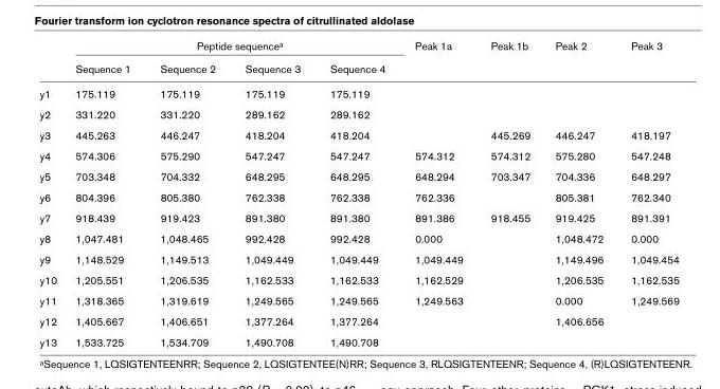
<table><thead><tr><td rowspan="2"></td><td colspan="4">Peptide sequence<sup>a</sup></td><td rowspan="2">Peak 1a</td><td rowspan="2">Peak 1b</td><td rowspan="2">Peak 2</td><td rowspan="2">Peak 3</td></tr><tr><td>Sequence 1</td><td>Sequence 2</td><td>Sequence 3</td><td>Sequence 4</td></tr></thead><tbody><tr><td>y1</td><td>175.119</td><td>175.119</td><td>175.119</td><td>175.119</td><td></td><td></td><td></td><td></td></tr><tr><td>y2</td><td>331.220</td><td>331.220</td><td>289.162</td><td>289.162</td><td></td><td></td><td></td><td></td></tr><tr><td>y3</td><td>445.263</td><td>446.247</td><td>418.204</td><td>418.204</td><td></td><td>445.269</td><td>446.247</td><td>418.197</td></tr><tr><td>y4</td><td>574.306</td><td>575.290</td><td>547.247</td><td>547.247</td><td>574.312</td><td>574.312</td><td>575.280</td><td>547.248</td></tr><tr><td>y5</td><td>703.348</td><td>704.332</td><td>648.295</td><td>648.295</td><td>648.294</td><td>703.347</td><td>704.336</td><td>648.297</td></tr><tr><td>y6</td><td>804.396</td><td>805.380</td><td>762.338</td><td>762.338</td><td>762.336</td><td></td><td>805.381</td><td>762.340</td></tr><tr><td>y7</td><td>918.439</td><td>919.423</td><td>891.380</td><td>891.380</td><td>891.386</td><td>918.455</td><td>919.425</td><td>891.391</td></tr><tr><td>y8</td><td>1,047.481</td><td>1,048.465</td><td>992.428</td><td>992.428</td><td>0.000</td><td></td><td>1,048.472</td><td>0.000</td></tr><tr><td>y9</td><td>1,148.529</td><td>1,149.513</td><td>1,049.449</td><td>1,049.449</td><td>1,049.449</td><td></td><td>1,149.496</td><td>1,049.454</td></tr><tr><td>y10</td><td>1,205.551</td><td>1,206.535</td><td>1,162.533</td><td>1,162.533</td><td>1,162.529</td><td></td><td>1,206.535</td><td>1,162.535</td></tr><tr><td>y11</td><td>1,318.365</td><td>1,319.619</td><td>1,249.565</td><td>1,249.565</td><td>1,249.563</td><td></td><td>0.000</td><td>1,249.569</td></tr><tr><td>y12</td><td>1,405.667</td><td>1,406.651</td><td>1,377.264</td><td>1,377.264</td><td></td><td></td><td>1,406.656</td><td></td></tr><tr><td>y13</td><td>1,533.725</td><td>1,534.709</td><td>1,490.708</td><td>1,490.708</td><td></td><td></td><td></td><td></td></tr></tbody></table>